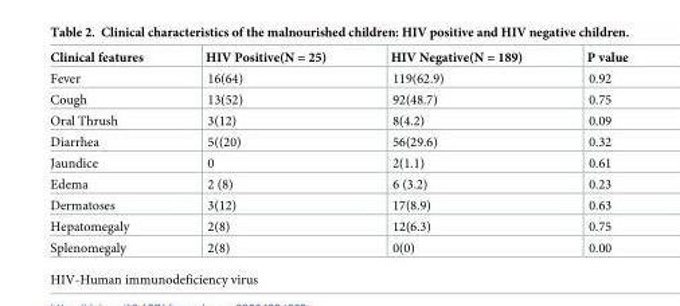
<table><thead><tr><td>Clinical features</td><td>HIV Positive(N = 25)</td><td>HIV Negative(N = 189)</td><td>P value</td></tr></thead><tbody><tr><td>Fever</td><td>16(64)</td><td>119(62.9)</td><td>0.92</td></tr><tr><td>Cough</td><td>13(52)</td><td>92(48.7)</td><td>0.75</td></tr><tr><td>Oral Thrush</td><td>3(12)</td><td>8(4.2)</td><td>0.09</td></tr><tr><td>Diarrhea</td><td>5((20)</td><td>56(29.6)</td><td>0.32</td></tr><tr><td>Jaundice</td><td>0</td><td>2(1.1)</td><td>0.61</td></tr><tr><td>Edema</td><td>2 (8)</td><td>6 (3.2)</td><td>0.23</td></tr><tr><td>Dermatoses</td><td>3(12)</td><td>17(8.9)</td><td>0.63</td></tr><tr><td>Hepatomegaly</td><td>2(8)</td><td>12(6.3)</td><td>0.75</td></tr><tr><td>Splenomegaly</td><td>2(8)</td><td>0(0)</td><td>0.00</td></tr></tbody></table>